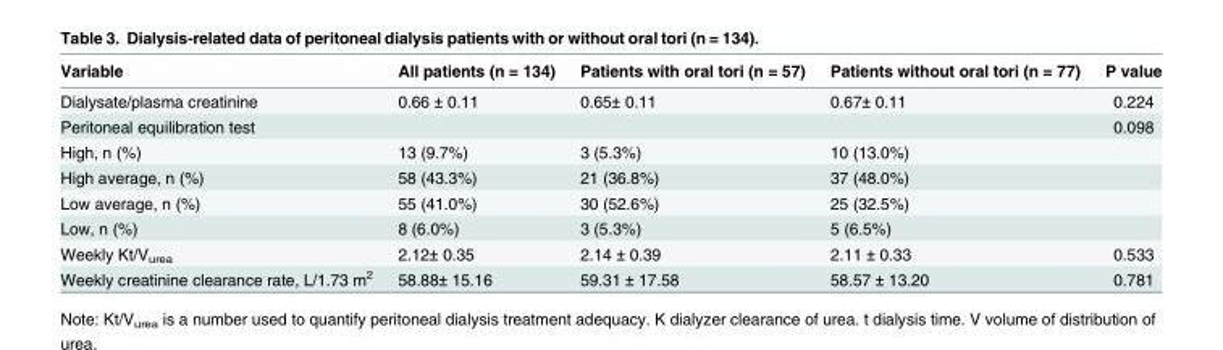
<table><thead><tr><td>Variable</td><td>All patients (n = 134)</td><td>Patients with oral tori (n = 57)</td><td>Patients without oral tori (n = 77)</td><td>P value</td></tr></thead><tbody><tr><td>Dialysate/plasma creatinine</td><td>0.66 ± 0.11</td><td>0.65± 0.11</td><td>0.67± 0.11</td><td>0.224</td></tr><tr><td>Peritoneal equilibration test</td><td></td><td></td><td></td><td>0.098</td></tr><tr><td>High, n (%)</td><td>13 (9.7%)</td><td>3 (5.3%)</td><td>10 (13.0%)</td><td></td></tr><tr><td>High average, n (%)</td><td>58 (43.3%)</td><td>21 (36.8%)</td><td>37 (48.0%)</td><td></td></tr><tr><td>Low average, n (%)</td><td>55 (41.0%)</td><td>30 (52.6%)</td><td>25 (32.5%)</td><td></td></tr><tr><td>Low, n (%)</td><td>8 (6.0%)</td><td>3 (5.3%)</td><td>5 (6.5%)</td><td></td></tr><tr><td>Weekly Kt/V<sub>urea</sub></td><td>2.12± 0.35</td><td>2.14 ± 0.39</td><td>2.11 ± 0.33</td><td>0.533</td></tr><tr><td>Weekly creatinine clearance rate, L/1.73 m<sup>2</sup></td><td>58.88± 15.16</td><td>59.31 ± 17.58</td><td>58.57 ± 13.20</td><td>0.781</td></tr></tbody></table>